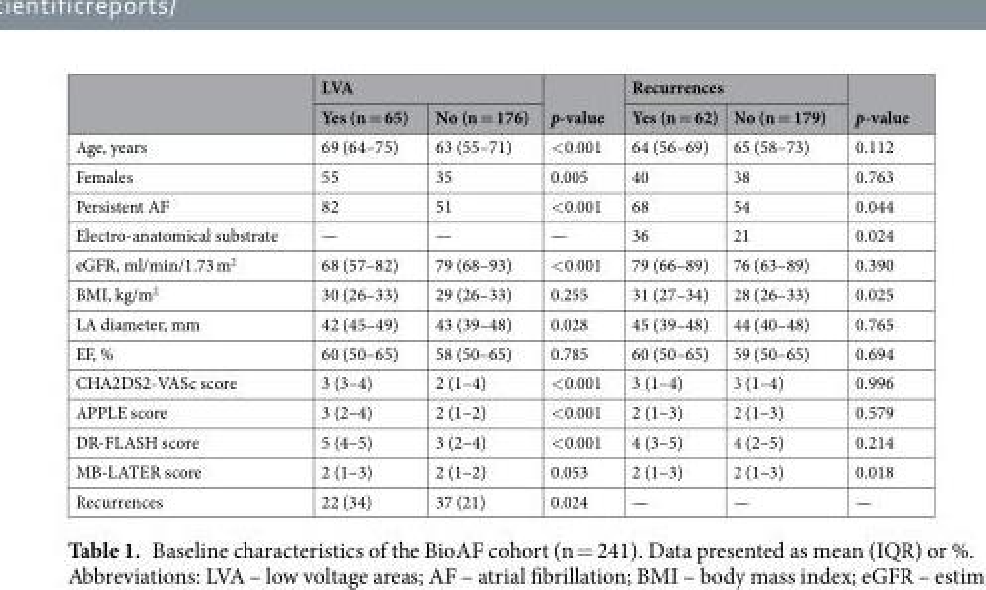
<table><thead><tr><td rowspan="2"></td><td colspan="2">LVA</td><td rowspan="2">p-value</td><td colspan="2">Recurrences</td><td rowspan="2">p-value</td></tr><tr><td>Yes (n = 65)</td><td>No (n = 176)</td><td>Yes (n = 62)</td><td>No (n = 179)</td></tr></thead><tbody><tr><td>Age, years</td><td>69 (64–75)</td><td>63 (55–71)</td><td>&lt;0.001</td><td>64 (56–69)</td><td>65 (58–73)</td><td>0.112</td></tr><tr><td>Females</td><td>55</td><td>35</td><td>0.005</td><td>40</td><td>38</td><td>0.763</td></tr><tr><td>Persistent AF</td><td>82</td><td>51</td><td>&lt;0.001</td><td>68</td><td>54</td><td>0.044</td></tr><tr><td>Electro-anatomical substrate</td><td>—</td><td>—</td><td>—</td><td>36</td><td>21</td><td>0.024</td></tr><tr><td>eGFR, ml/min/1.73 m<sup>2</sup></td><td>68 (57–82)</td><td>79 (68–93)</td><td>&lt;0.001</td><td>79 (66–89)</td><td>76 (63–89)</td><td>0.390</td></tr><tr><td>BMI, kg/m<sup>2</sup></td><td>30 (26–33)</td><td>29 (26–33)</td><td>0.255</td><td>31 (27–34)</td><td>28 (26–33)</td><td>0.025</td></tr><tr><td>LA diameter, mm</td><td>42 (45–49)</td><td>43 (39–48)</td><td>0.028</td><td>45 (39–48)</td><td>44 (40–48)</td><td>0.765</td></tr><tr><td>EF, %</td><td>60 (50–65)</td><td>58 (50–65)</td><td>0.785</td><td>60 (50–65)</td><td>59 (50–65)</td><td>0.694</td></tr><tr><td>CHA2DS2-VASc score</td><td>3 (3–4)</td><td>2 (1–4)</td><td>&lt;0.001</td><td>3 (1–4)</td><td>3 (1–4)</td><td>0.996</td></tr><tr><td>APPLE score</td><td>3 (2–4)</td><td>2 (1–2)</td><td>&lt;0.001</td><td>2 (1–3)</td><td>2 (1–3)</td><td>0.579</td></tr><tr><td>DR-FLASH score</td><td>5 (4–5)</td><td>3 (2–4)</td><td>&lt;0.001</td><td>4 (3–5)</td><td>4 (2–5)</td><td>0.214</td></tr><tr><td>MB-LATER score</td><td>2 (1–3)</td><td>2 (1–2)</td><td>0.053</td><td>2 (1–3)</td><td>2 (1–3)</td><td>0.018</td></tr><tr><td>Recurrences</td><td>22 (34)</td><td>37 (21)</td><td>0.024</td><td>—</td><td>—</td><td>—</td></tr></tbody></table>